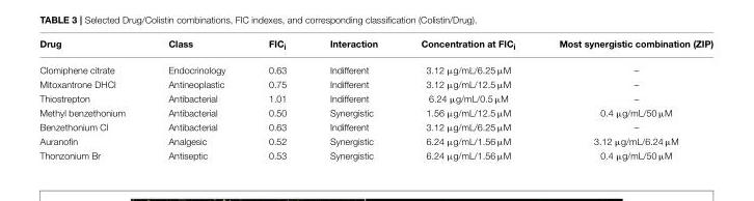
<table><thead><tr><td>Drug</td><td>Class</td><td>FIC<sub>i</sub></td><td>Interaction</td><td>Concentration at FIC<sub>i</sub></td><td>Most synergistic combination (ZIP)</td></tr></thead><tbody><tr><td>Clomiphene citrate</td><td>Endocrinology</td><td>0.63</td><td>Indifferent</td><td>3.12 µg/mL/6.25 µM</td><td>–</td></tr><tr><td>Mitoxantrone DHCl</td><td>Antineoplastic</td><td>0.75</td><td>Indifferent</td><td>3.12 µg/mL/12.5 µM</td><td>–</td></tr><tr><td>Thiostrepton</td><td>Antibacterial</td><td>1.01</td><td>Indifferent</td><td>6.24 µg/mL/0.5 µM</td><td>–</td></tr><tr><td>Methyl benzethonium</td><td>Antibacterial</td><td>0.50</td><td>Synergistic</td><td>1.56 µg/mL/12.5 µM</td><td>0.4 µg/mL/50 µM</td></tr><tr><td>Benzethonium Cl</td><td>Antibacterial</td><td>0.63</td><td>Indifferent</td><td>3.12 µg/mL/6.25 µM</td><td>–</td></tr><tr><td>Auranofin</td><td>Analgesic</td><td>0.52</td><td>Synergistic</td><td>6.24 µg/mL/1.56 µM</td><td>3.12 µg/mL/6.24 µM</td></tr><tr><td>Thonzonium Br</td><td>Antiseptic</td><td>0.53</td><td>Synergistic</td><td>6.24 µg/mL/1.56 µM</td><td>0.4 µg/mL/50 µM</td></tr></tbody></table>